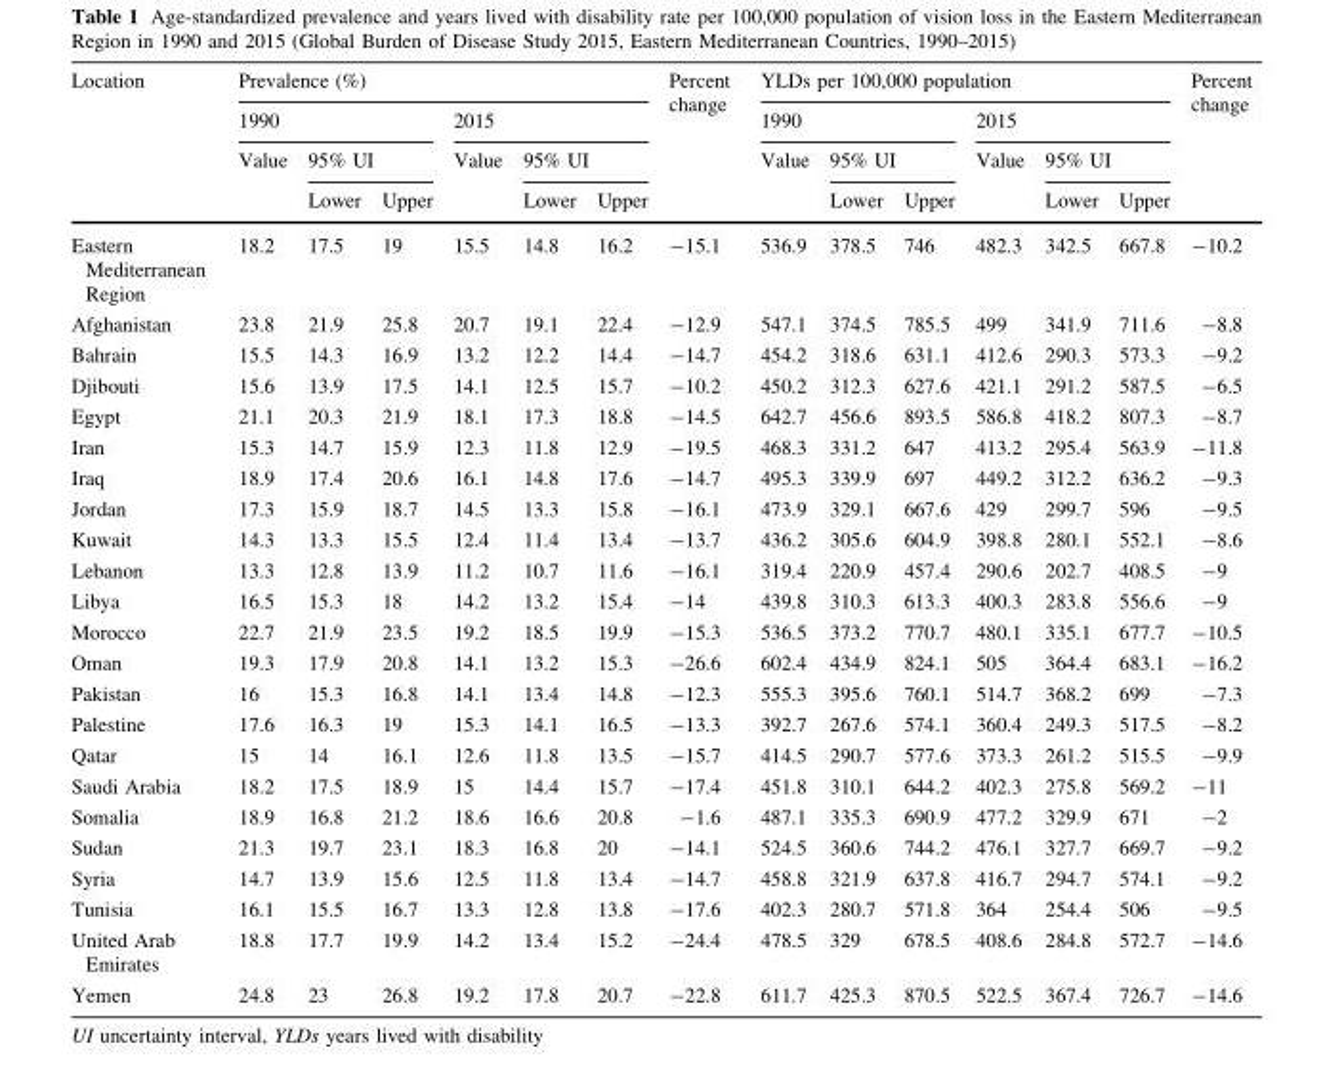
<table><thead><tr><td rowspan="4">Location</td><td colspan="6">Prevalence (%)</td><td rowspan="4">Percent change</td><td colspan="6">YLDs per 100,000 population</td><td rowspan="4">Percent change</td></tr><tr><td colspan="3">1990</td><td colspan="3">2015</td><td colspan="3">1990</td><td colspan="3">2015</td></tr><tr><td rowspan="2">Value</td><td colspan="2">95% UI</td><td rowspan="2">Value</td><td colspan="2">95% UI</td><td rowspan="2">Value</td><td colspan="2">95% UI</td><td rowspan="2">Value</td><td colspan="2">95% UI</td></tr><tr><td>Lower</td><td>Upper</td><td>Lower</td><td>Upper</td><td>Lower</td><td>Upper</td><td>Lower</td><td>Upper</td></tr></thead><tbody><tr><td>Eastern Mediterranean Region</td><td>18.2</td><td>17.5</td><td>19</td><td>15.5</td><td>14.8</td><td>16.2</td><td>-15.1</td><td>536.9</td><td>378.5</td><td>746</td><td>482.3</td><td>342.5</td><td>667.8</td><td>-10.2</td></tr><tr><td>Afghanistan</td><td>23.8</td><td>21.9</td><td>25.8</td><td>20.7</td><td>19.1</td><td>22.4</td><td>-12.9</td><td>547.1</td><td>374.5</td><td>785.5</td><td>499</td><td>341.9</td><td>711.6</td><td>-8.8</td></tr><tr><td>Bahrain</td><td>15.5</td><td>14.3</td><td>16.9</td><td>13.2</td><td>12.2</td><td>14.4</td><td>-14.7</td><td>454.2</td><td>318.6</td><td>631.1</td><td>412.6</td><td>290.3</td><td>573.3</td><td>-9.2</td></tr><tr><td>Djibouti</td><td>15.6</td><td>13.9</td><td>17.5</td><td>14.1</td><td>12.5</td><td>15.7</td><td>-10.2</td><td>450.2</td><td>312.3</td><td>627.6</td><td>421.1</td><td>291.2</td><td>587.5</td><td>-6.5</td></tr><tr><td>Egypt</td><td>21.1</td><td>20.3</td><td>21.9</td><td>18.1</td><td>17.3</td><td>18.8</td><td>-14.5</td><td>642.7</td><td>456.6</td><td>893.5</td><td>586.8</td><td>418.2</td><td>807.3</td><td>-8.7</td></tr><tr><td>Iran</td><td>15.3</td><td>14.7</td><td>15.9</td><td>12.3</td><td>11.8</td><td>12.9</td><td>-19.5</td><td>468.3</td><td>331.2</td><td>647</td><td>413.2</td><td>295.4</td><td>563.9</td><td>-11.8</td></tr><tr><td>Iraq</td><td>18.9</td><td>17.4</td><td>20.6</td><td>16.1</td><td>14.8</td><td>17.6</td><td>-14.7</td><td>495.3</td><td>339.9</td><td>697</td><td>449.2</td><td>312.2</td><td>636.2</td><td>-9.3</td></tr><tr><td>Jordan</td><td>17.3</td><td>15.9</td><td>18.7</td><td>14.5</td><td>13.3</td><td>15.8</td><td>-16.1</td><td>473.9</td><td>329.1</td><td>667.6</td><td>429</td><td>299.7</td><td>596</td><td>-9.5</td></tr><tr><td>Kuwait</td><td>14.3</td><td>13.3</td><td>15.5</td><td>12.4</td><td>11.4</td><td>13.4</td><td>-13.7</td><td>436.2</td><td>305.6</td><td>604.9</td><td>398.8</td><td>280.1</td><td>552.1</td><td>-8.6</td></tr><tr><td>Lebanon</td><td>13.3</td><td>12.8</td><td>13.9</td><td>11.2</td><td>10.7</td><td>11.6</td><td>-16.1</td><td>319.4</td><td>220.9</td><td>457.4</td><td>290.6</td><td>202.7</td><td>408.5</td><td>-9</td></tr><tr><td>Libya</td><td>16.5</td><td>15.3</td><td>18</td><td>14.2</td><td>13.2</td><td>15.4</td><td>-14</td><td>439.8</td><td>310.3</td><td>613.3</td><td>400.3</td><td>283.8</td><td>556.6</td><td>-9</td></tr><tr><td>Morocco</td><td>22.7</td><td>21.9</td><td>23.5</td><td>19.2</td><td>18.5</td><td>19.9</td><td>-15.3</td><td>536.5</td><td>373.2</td><td>770.7</td><td>480.1</td><td>335.1</td><td>677.7</td><td>-10.5</td></tr><tr><td>Oman</td><td>19.3</td><td>17.9</td><td>20.8</td><td>14.1</td><td>13.2</td><td>15.3</td><td>-26.6</td><td>602.4</td><td>434.9</td><td>824.1</td><td>505</td><td>364.4</td><td>683.1</td><td>-16.2</td></tr><tr><td>Pakistan</td><td>16</td><td>15.3</td><td>16.8</td><td>14.1</td><td>13.4</td><td>14.8</td><td>-12.3</td><td>555.3</td><td>395.6</td><td>760.1</td><td>514.7</td><td>368.2</td><td>699</td><td>-7.3</td></tr><tr><td>Palestine</td><td>17.6</td><td>16.3</td><td>19</td><td>15.3</td><td>14.1</td><td>16.5</td><td>-13.3</td><td>392.7</td><td>267.6</td><td>574.1</td><td>360.4</td><td>249.3</td><td>517.5</td><td>-8.2</td></tr><tr><td>Qatar</td><td>15</td><td>14</td><td>16.1</td><td>12.6</td><td>11.8</td><td>13.5</td><td>-15.7</td><td>414.5</td><td>290.7</td><td>577.6</td><td>373.3</td><td>261.2</td><td>515.5</td><td>-9.9</td></tr><tr><td>Saudi Arabia</td><td>18.2</td><td>17.5</td><td>18.9</td><td>15</td><td>14.4</td><td>15.7</td><td>-17.4</td><td>451.8</td><td>310.1</td><td>644.2</td><td>402.3</td><td>275.8</td><td>569.2</td><td>-11</td></tr><tr><td>Somalia</td><td>18.9</td><td>16.8</td><td>21.2</td><td>18.6</td><td>16.6</td><td>20.8</td><td>-1.6</td><td>487.1</td><td>335.3</td><td>690.9</td><td>477.2</td><td>329.9</td><td>671</td><td>-2</td></tr><tr><td>Sudan</td><td>21.3</td><td>19.7</td><td>23.1</td><td>18.3</td><td>16.8</td><td>20</td><td>-14.1</td><td>524.5</td><td>360.6</td><td>744.2</td><td>476.1</td><td>327.7</td><td>669.7</td><td>-9.2</td></tr><tr><td>Syria</td><td>14.7</td><td>13.9</td><td>15.6</td><td>12.5</td><td>11.8</td><td>13.4</td><td>-14.7</td><td>458.8</td><td>321.9</td><td>637.8</td><td>416.7</td><td>294.7</td><td>574.1</td><td>-9.2</td></tr><tr><td>Tunisia</td><td>16.1</td><td>15.5</td><td>16.7</td><td>13.3</td><td>12.8</td><td>13.8</td><td>-17.6</td><td>402.3</td><td>280.7</td><td>571.8</td><td>364</td><td>254.4</td><td>506</td><td>-9.5</td></tr><tr><td>United Arab Emirates</td><td>18.8</td><td>17.7</td><td>19.9</td><td>14.2</td><td>13.4</td><td>15.2</td><td>-24.4</td><td>478.5</td><td>329</td><td>678.5</td><td>408.6</td><td>284.8</td><td>572.7</td><td>-14.6</td></tr><tr><td>Yemen</td><td>24.8</td><td>23</td><td>26.8</td><td>19.2</td><td>17.8</td><td>20.7</td><td>-22.8</td><td>611.7</td><td>425.3</td><td>870.5</td><td>522.5</td><td>367.4</td><td>726.7</td><td>-14.6</td></tr></tbody></table>